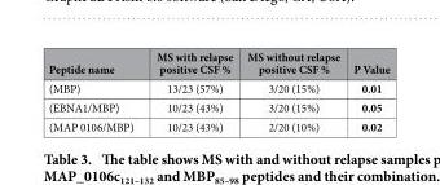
<table><thead><tr><td>Peptide name</td><td>MS with relapse positive CSF %</td><td>MS without relapse positive CSF %</td><td>P Value</td></tr></thead><tbody><tr><td>(MBP)</td><td>13/23 (57%)</td><td>3/20 (15%)</td><td>0.01</td></tr><tr><td>(EBNA1/MBP)</td><td>10/23 (43%)</td><td>3/20 (15%)</td><td>0.05</td></tr><tr><td>(MAP 0106/MBP)</td><td>10/23 (43%)</td><td>2/20 (10%)</td><td>0.02</td></tr></tbody></table>